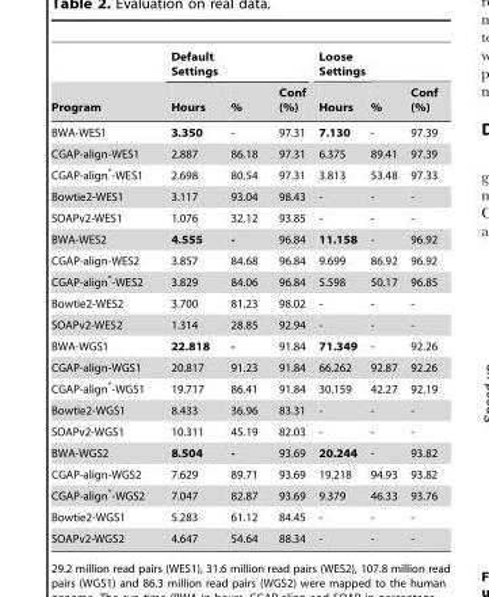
<table><thead><tr><td rowspan="2">Program</td><td rowspan="2">Default Settings Hours</td><td rowspan="2">%</td><td rowspan="2">Conf (%)</td><td rowspan="2">Loose Settings Hours</td><td rowspan="2">%</td><td rowspan="2">Conf (%)</td></tr><tr></tr></thead><tbody><tr><td>BWA-WES1</td><td>3.350</td><td>-</td><td>97.31</td><td>7.130</td><td>-</td><td>97.39</td></tr><tr><td>CGAP-align-WES1</td><td>2.887</td><td>86.18</td><td>97.31</td><td>6.375</td><td>89.41</td><td>97.39</td></tr><tr><td>CGAP-align*-WES1</td><td>2.698</td><td>80.54</td><td>97.31</td><td>3.813</td><td>53.48</td><td>97.33</td></tr><tr><td>Bowtie2-WES1</td><td>3.117</td><td>93.04</td><td>98.43</td><td>-</td><td>-</td><td>-</td></tr><tr><td>SOAPv2-WES1</td><td>1.076</td><td>32.12</td><td>93.85</td><td>-</td><td>-</td><td>-</td></tr><tr><td>BWA-WES2</td><td>4.555</td><td>-</td><td>96.84</td><td>11.158</td><td>-</td><td>96.92</td></tr><tr><td>CGAP-align-WES2</td><td>3.857</td><td>84.68</td><td>96.84</td><td>9.699</td><td>86.92</td><td>96.92</td></tr><tr><td>CGAP-align*-WES2</td><td>3.829</td><td>84.06</td><td>96.84</td><td>5.598</td><td>50.17</td><td>96.85</td></tr><tr><td>Bowtie2-WES2</td><td>3.700</td><td>81.23</td><td>98.02</td><td>-</td><td>-</td><td>-</td></tr><tr><td>SOAPv2-WES2</td><td>1.314</td><td>28.85</td><td>92.94</td><td>-</td><td>-</td><td>-</td></tr><tr><td>BWA-WGS1</td><td>22.818</td><td>-</td><td>91.84</td><td>71.349</td><td>-</td><td>92.26</td></tr><tr><td>CGAP-align-WGS1</td><td>20.817</td><td>91.23</td><td>91.84</td><td>66.262</td><td>92.87</td><td>92.26</td></tr><tr><td>CGAP-align*-WGS1</td><td>19.717</td><td>86.41</td><td>91.84</td><td>30.159</td><td>42.27</td><td>92.19</td></tr><tr><td>Bowtie2-WGS1</td><td>8.433</td><td>36.96</td><td>83.31</td><td>-</td><td>-</td><td>-</td></tr><tr><td>SOAPv2-WGS1</td><td>10.311</td><td>45.19</td><td>82.03</td><td>-</td><td>-</td><td>-</td></tr><tr><td>BWA-WGS2</td><td>8.504</td><td>-</td><td>93.69</td><td>20.244</td><td>-</td><td>93.82</td></tr><tr><td>CGAP-align-WGS2</td><td>7.629</td><td>89.71</td><td>93.69</td><td>19.218</td><td>94.93</td><td>93.82</td></tr><tr><td>CGAP-align*-WGS2</td><td>7.047</td><td>82.87</td><td>93.69</td><td>9.379</td><td>46.33</td><td>93.76</td></tr><tr><td>Bowtie2-WGS1</td><td>5.283</td><td>61.12</td><td>84.45</td><td>-</td><td>-</td><td>-</td></tr><tr><td>SOAPv2-WGS2</td><td>4.647</td><td>54.64</td><td>88.34</td><td>-</td><td>-</td><td>-</td></tr></tbody></table>